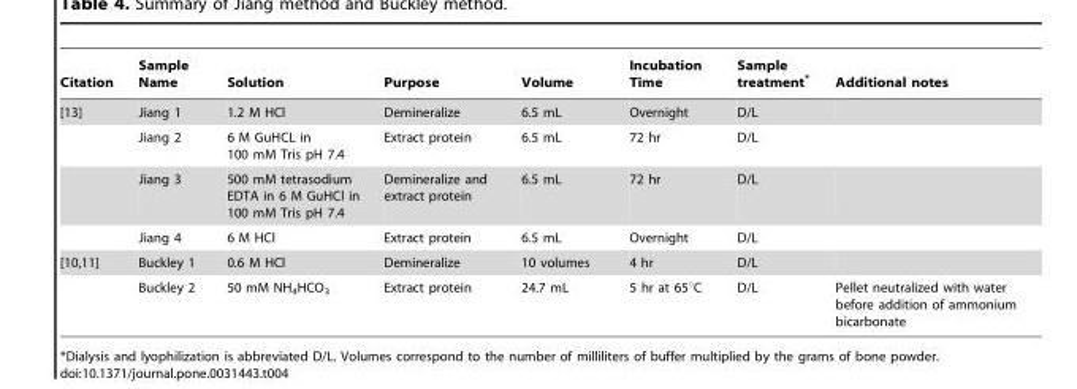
<table><thead><tr><td>Citation</td><td>Sample Name</td><td>Solution</td><td>Purpose</td><td>Volume</td><td>Incubation Time</td><td>Sample treatment*</td><td>Additional notes</td></tr></thead><tbody><tr><td rowspan="4">[13]</td><td>Jiang 1</td><td>1.2 M HCl</td><td>Demineralize</td><td>6.5 mL</td><td>Overnight</td><td>D/L</td><td></td></tr><tr><td>Jiang 2</td><td>6 M GuHCL in 100 mM Tris pH 7.4</td><td>Extract protein</td><td>6.5 mL</td><td>72 hr</td><td>D/L</td><td></td></tr><tr><td>Jiang 3</td><td>500 mM tetrasodium EDTA in 6 M GuHCl in 100 mM Tris pH 7.4</td><td>Demineralize and extract protein</td><td>6.5 mL</td><td>72 hr</td><td>D/L</td><td></td></tr><tr><td>Jiang 4</td><td>6 M HCl</td><td>Extract protein</td><td>6.5 mL</td><td>Overnight</td><td>D/L</td><td></td></tr><tr><td rowspan="2">[10,11]</td><td>Buckley 1</td><td>0.6 M HCl</td><td>Demineralize</td><td>10 volumes</td><td>4 hr</td><td>D/L</td><td></td></tr><tr><td>Buckley 2</td><td>50 mM NH<sub>4</sub>HCO<sub>3</sub></td><td>Extract protein</td><td>24.7 mL</td><td>5 hr at 65°C</td><td>D/L</td><td>Pellet neutralized with water before addition of ammonium bicarbonate</td></tr></tbody></table>